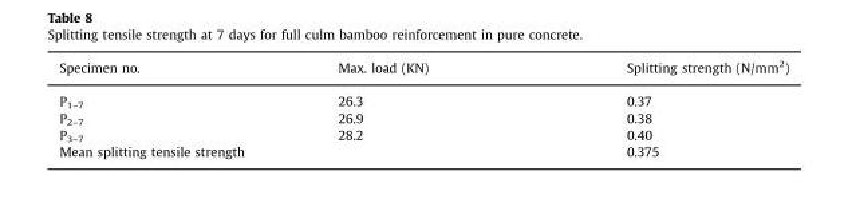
<table><thead><tr><td>Specimen no.</td><td>Max. load (KN)</td><td>Splitting strength (N/mm<sup>2</sup>)</td></tr></thead><tbody><tr><td>P<sub>1–7</sub></td><td>26.3</td><td>0.37</td></tr><tr><td>P<sub>2–7</sub></td><td>26.9</td><td>0.38</td></tr><tr><td>P<sub>3–7</sub></td><td>28.2</td><td>0.40</td></tr><tr><td colspan="2">Mean splitting tensile strength</td><td>0.375</td></tr></tbody></table>